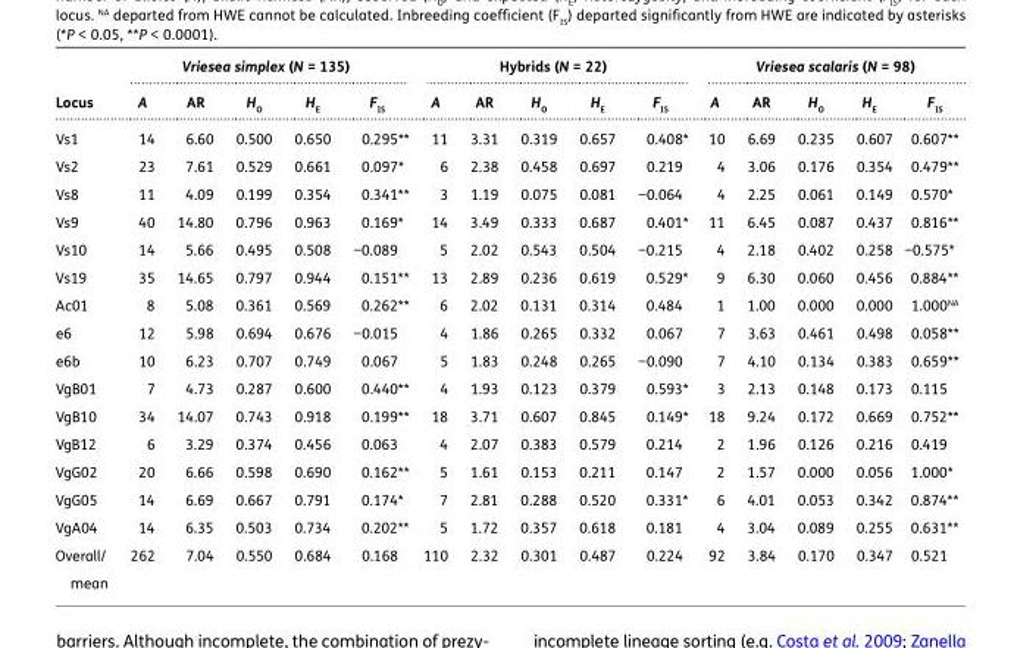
<table><thead><tr><td rowspan="2">Locus</td><td colspan="5">Vriesea simplex (N = 135)</td><td colspan="5">Hybrids (N = 22)</td><td colspan="5">Vriesea scalaris (N = 98)</td></tr><tr><td>A</td><td>AR</td><td>H<sub>O</sub></td><td>H<sub>E</sub></td><td>F<sub>IS</sub></td><td>A</td><td>AR</td><td>H<sub>O</sub></td><td>H<sub>E</sub></td><td>F<sub>IS</sub></td><td>A</td><td>AR</td><td>H<sub>O</sub></td><td>H<sub>E</sub></td><td>F<sub>IS</sub></td></tr></thead><tbody><tr><td>Vs1</td><td>14</td><td>6.60</td><td>0.500</td><td>0.650</td><td>0.295**</td><td>11</td><td>3.31</td><td>0.319</td><td>0.657</td><td>0.408*</td><td>10</td><td>6.69</td><td>0.235</td><td>0.607</td><td>0.607**</td></tr><tr><td>Vs2</td><td>23</td><td>7.61</td><td>0.529</td><td>0.661</td><td>0.097*</td><td>6</td><td>2.38</td><td>0.458</td><td>0.697</td><td>0.219</td><td>4</td><td>3.06</td><td>0.176</td><td>0.354</td><td>0.479**</td></tr><tr><td>Vs8</td><td>11</td><td>4.09</td><td>0.199</td><td>0.354</td><td>0.341**</td><td>3</td><td>1.19</td><td>0.075</td><td>0.081</td><td>−0.064</td><td>4</td><td>2.25</td><td>0.061</td><td>0.149</td><td>0.570*</td></tr><tr><td>Vs9</td><td>40</td><td>14.80</td><td>0.796</td><td>0.963</td><td>0.169*</td><td>14</td><td>3.49</td><td>0.333</td><td>0.687</td><td>0.401*</td><td>11</td><td>6.45</td><td>0.087</td><td>0.437</td><td>0.816**</td></tr><tr><td>Vs10</td><td>14</td><td>5.66</td><td>0.495</td><td>0.508</td><td>−0.089</td><td>5</td><td>2.02</td><td>0.543</td><td>0.504</td><td>−0.215</td><td>4</td><td>2.18</td><td>0.402</td><td>0.258</td><td>−0.575*</td></tr><tr><td>Vs19</td><td>35</td><td>14.65</td><td>0.797</td><td>0.944</td><td>0.151**</td><td>13</td><td>2.89</td><td>0.236</td><td>0.619</td><td>0.529*</td><td>9</td><td>6.30</td><td>0.060</td><td>0.456</td><td>0.884**</td></tr><tr><td>Ac01</td><td>8</td><td>5.08</td><td>0.361</td><td>0.569</td><td>0.262**</td><td>6</td><td>2.02</td><td>0.131</td><td>0.314</td><td>0.484</td><td>1</td><td>1.00</td><td>0.000</td><td>0.000</td><td>1.000<sup>NA</sup></td></tr><tr><td>e6</td><td>12</td><td>5.98</td><td>0.694</td><td>0.676</td><td>−0.015</td><td>4</td><td>1.86</td><td>0.265</td><td>0.332</td><td>0.067</td><td>7</td><td>3.63</td><td>0.461</td><td>0.498</td><td>0.058**</td></tr><tr><td>e6b</td><td>10</td><td>6.23</td><td>0.707</td><td>0.749</td><td>0.067</td><td>5</td><td>1.83</td><td>0.248</td><td>0.265</td><td>−0.090</td><td>7</td><td>4.10</td><td>0.134</td><td>0.383</td><td>0.659**</td></tr><tr><td>VgB01</td><td>7</td><td>4.73</td><td>0.287</td><td>0.600</td><td>0.440**</td><td>4</td><td>1.93</td><td>0.123</td><td>0.379</td><td>0.593*</td><td>3</td><td>2.13</td><td>0.148</td><td>0.173</td><td>0.115</td></tr><tr><td>VgB10</td><td>34</td><td>14.07</td><td>0.743</td><td>0.918</td><td>0.199**</td><td>18</td><td>3.71</td><td>0.607</td><td>0.845</td><td>0.149*</td><td>18</td><td>9.24</td><td>0.172</td><td>0.669</td><td>0.752**</td></tr><tr><td>VgB12</td><td>6</td><td>3.29</td><td>0.374</td><td>0.456</td><td>0.063</td><td>4</td><td>2.07</td><td>0.383</td><td>0.579</td><td>0.214</td><td>2</td><td>1.96</td><td>0.126</td><td>0.216</td><td>0.419</td></tr><tr><td>VgG02</td><td>20</td><td>6.66</td><td>0.598</td><td>0.690</td><td>0.162**</td><td>5</td><td>1.61</td><td>0.153</td><td>0.211</td><td>0.147</td><td>2</td><td>1.57</td><td>0.000</td><td>0.056</td><td>1.000*</td></tr><tr><td>VgG05</td><td>14</td><td>6.69</td><td>0.667</td><td>0.791</td><td>0.174*</td><td>7</td><td>2.81</td><td>0.288</td><td>0.520</td><td>0.331*</td><td>6</td><td>4.01</td><td>0.053</td><td>0.342</td><td>0.874**</td></tr><tr><td>VgA04</td><td>14</td><td>6.35</td><td>0.503</td><td>0.734</td><td>0.202**</td><td>5</td><td>1.72</td><td>0.357</td><td>0.618</td><td>0.181</td><td>4</td><td>3.04</td><td>0.089</td><td>0.255</td><td>0.631**</td></tr><tr><td>Overall/ mean</td><td>262</td><td>7.04</td><td>0.550</td><td>0.684</td><td>0.168</td><td>110</td><td>2.32</td><td>0.301</td><td>0.487</td><td>0.224</td><td>92</td><td>3.84</td><td>0.170</td><td>0.347</td><td>0.521</td></tr></tbody></table>